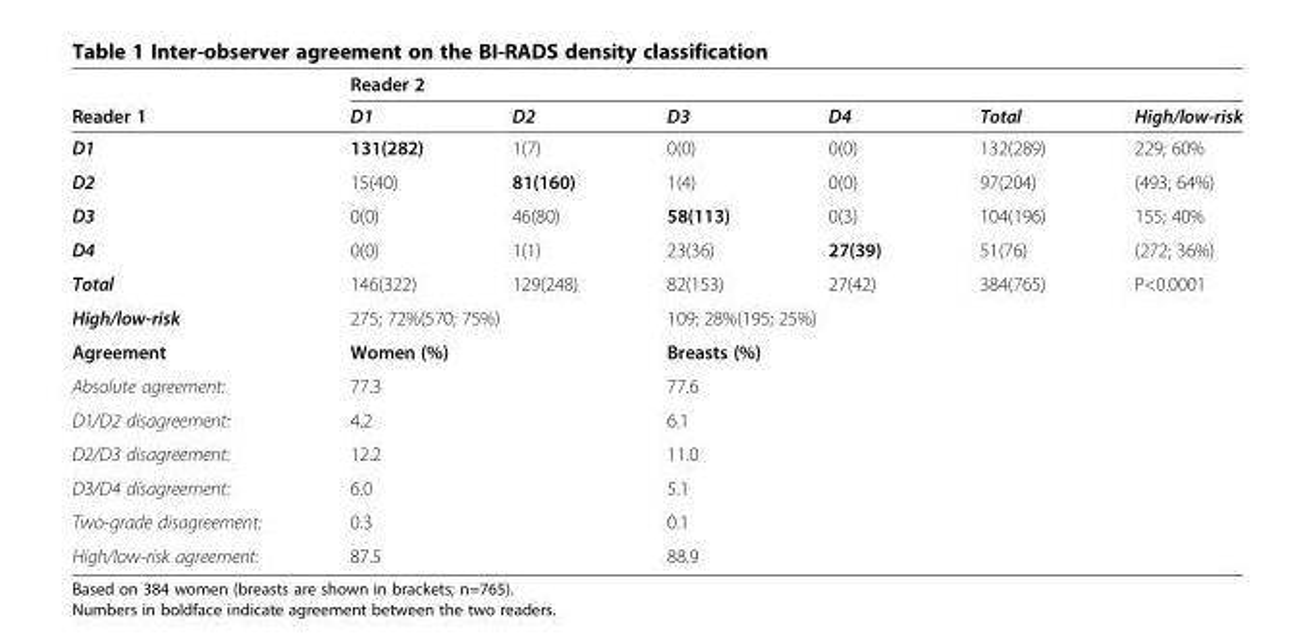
<table><thead><tr><td rowspan="2">Reader 1</td><td colspan="6">Reader 2</td></tr><tr><td>D1</td><td>D2</td><td>D3</td><td>D4</td><td>Total</td><td>High/low-risk</td></tr></thead><tbody><tr><td>D1</td><td>131(282)</td><td>1(7)</td><td>0(0)</td><td>0(0)</td><td>132(289)</td><td>229; 60%</td></tr><tr><td>D2</td><td>15(40)</td><td>81(160)</td><td>1(4)</td><td>0(0)</td><td>97(204)</td><td>(493; 64%)</td></tr><tr><td>D3</td><td>0(0)</td><td>46(80)</td><td>58(113)</td><td>0(3)</td><td>104(196)</td><td>155; 40%</td></tr><tr><td>D4</td><td>0(0)</td><td>1(1)</td><td>23(36)</td><td>27(39)</td><td>51(76)</td><td>(272; 36%)</td></tr><tr><td>Total</td><td>146(322)</td><td>129(248)</td><td>82(153)</td><td>27(42)</td><td>384(765)</td><td>P&lt;0.0001</td></tr><tr><td>High/low-risk</td><td colspan="2">275; 72%(570; 75%)</td><td colspan="2">109; 28%(195; 25%)</td><td></td><td></td></tr><tr><td>Agreement</td><td colspan="2">Women (%)</td><td colspan="2">Breasts (%)</td><td></td><td></td></tr><tr><td>Absolute agreement:</td><td colspan="2">77.3</td><td colspan="2">77.6</td><td></td><td></td></tr><tr><td>D1/D2 disagreement:</td><td colspan="2">4.2</td><td colspan="2">6.1</td><td></td><td></td></tr><tr><td>D2/D3 disagreement:</td><td colspan="2">12.2</td><td colspan="2">11.0</td><td></td><td></td></tr><tr><td>D3/D4 disagreement:</td><td colspan="2">6.0</td><td colspan="2">5.1</td><td></td><td></td></tr><tr><td>Two-grade disagreement:</td><td colspan="2">0.3</td><td colspan="2">0.1</td><td></td><td></td></tr><tr><td>High/low-risk agreement:</td><td colspan="2">87.5</td><td colspan="2">88.9</td><td></td><td></td></tr></tbody></table>